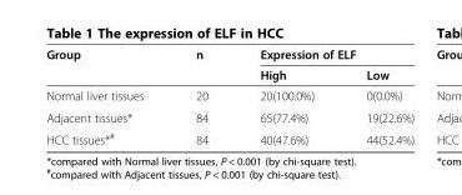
<table><thead><tr><td rowspan="2">Group</td><td rowspan="2">n</td><td colspan="2">Expression of ELF</td></tr><tr><td>High</td><td>Low</td></tr></thead><tbody><tr><td>Normal liver tissues</td><td>20</td><td>20(100.0%)</td><td>0(0.0%)</td></tr><tr><td>Adjacent tissues*</td><td>84</td><td>65(77.4%)</td><td>19(22.6%)</td></tr><tr><td>HCC tissues*<sup>#</sup></td><td>84</td><td>40(47.6%)</td><td>44(52.4%)</td></tr></tbody></table>